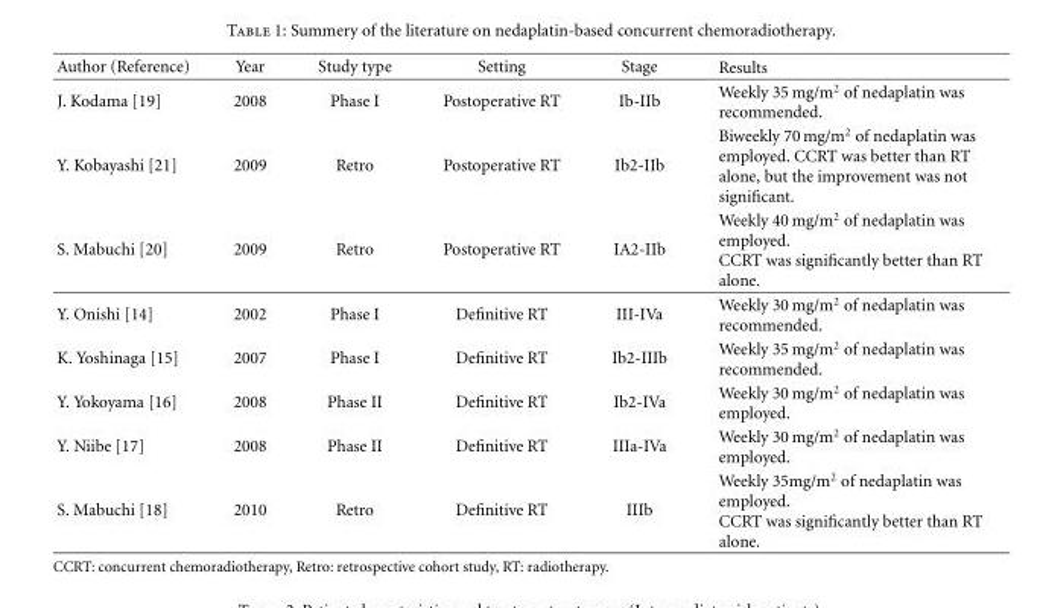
<table><thead><tr><td>Author (Reference)</td><td>Year</td><td>Study type</td><td>Setting</td><td>Stage</td><td>Results</td></tr></thead><tbody><tr><td>J. Kodama [19]</td><td>2008</td><td>Phase I</td><td>Postoperative RT</td><td>Ib-IIb</td><td>Weekly 35 mg/m<sup>2</sup> of nedaplatin was recommended.</td></tr><tr><td>Y. Kobayashi [21]</td><td>2009</td><td>Retro</td><td>Postoperative RT</td><td>Ib2-IIb</td><td>Biweekly 70 mg/m<sup>2</sup> of nedaplatin was employed. CCRT was better than RT alone, but the improvement was not significant.</td></tr><tr><td>S. Mabuchi [20]</td><td>2009</td><td>Retro</td><td>Postoperative RT</td><td>IA2-IIb</td><td>Weekly 40 mg/m<sup>2</sup> of nedaplatin was employed. CCRT was significantly better than RT alone.</td></tr><tr><td>Y. Onishi [14]</td><td>2002</td><td>Phase I</td><td>Definitive RT</td><td>III-IVa</td><td>Weekly 30 mg/m<sup>2</sup> of nedaplatin was recommended.</td></tr><tr><td>K. Yoshinaga [15]</td><td>2007</td><td>Phase I</td><td>Definitive RT</td><td>Ib2-IIIb</td><td>Weekly 35 mg/m<sup>2</sup> of nedaplatin was recommended.</td></tr><tr><td>Y. Yokoyama [16]</td><td>2008</td><td>Phase II</td><td>Definitive RT</td><td>Ib2-IVa</td><td>Weekly 30 mg/m<sup>2</sup> of nedaplatin was employed.</td></tr><tr><td>Y. Niibe [17]</td><td>2008</td><td>Phase II</td><td>Definitive RT</td><td>IIIa-IVa</td><td>Weekly 30 mg/m<sup>2</sup> of nedaplatin was employed.</td></tr><tr><td>S. Mabuchi [18]</td><td>2010</td><td>Retro</td><td>Definitive RT</td><td>IIIb</td><td>Weekly 35mg/m<sup>2</sup> of nedaplatin was employed. CCRT was significantly better than RT alone.</td></tr></tbody></table>